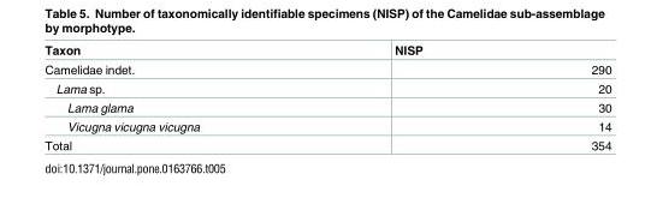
<table><thead><tr><td>Taxon</td><td>NISP</td></tr></thead><tbody><tr><td>Camelidae indet.</td><td>290</td></tr><tr><td>Lama sp.</td><td>20</td></tr><tr><td>Lama glama</td><td>30</td></tr><tr><td>Vicugna vicugna vicugna</td><td>14</td></tr><tr><td>Total</td><td>354</td></tr></tbody></table>